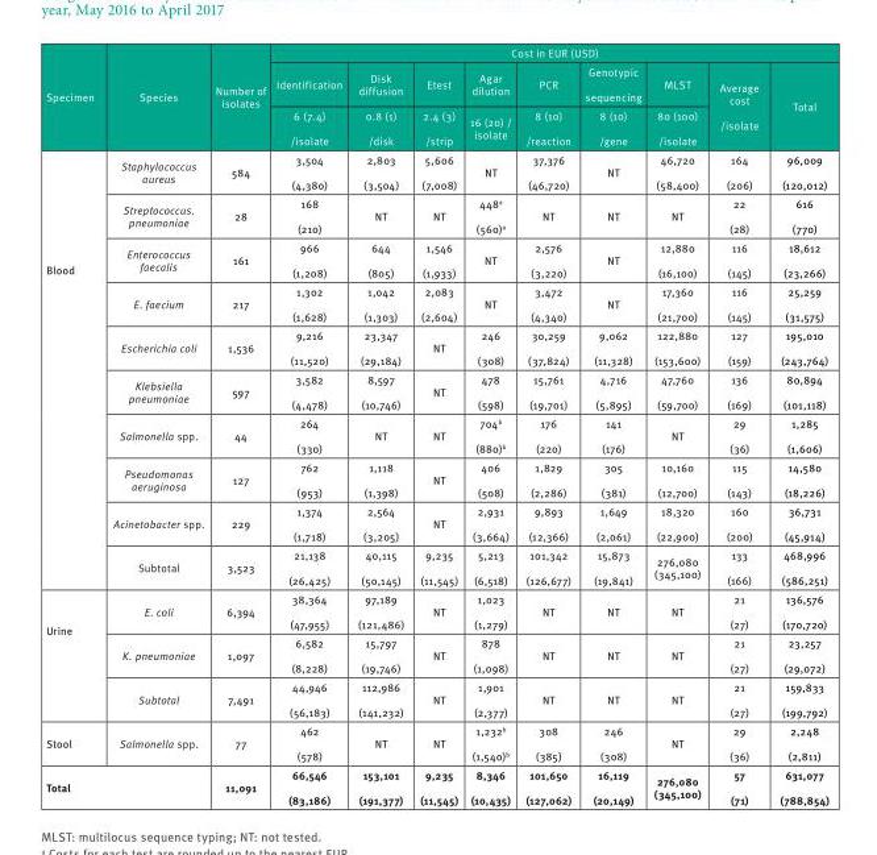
<table><thead><tr><td rowspan="3">Specimen</td><td rowspan="3">Species</td><td rowspan="3">Number of isolates</td><td colspan="9">Cost in EUR (USD)</td></tr><tr><td rowspan="2">Identification 6 (7.4) /isolate</td><td rowspan="2">Disk diffusion 0.8 (1) /disk</td><td rowspan="2">Etest 2.4 (3) /strip</td><td rowspan="2">Agar dilution 16 (20) / isolate</td><td rowspan="2">PCR 8 (10) /reaction</td><td rowspan="2">Genotypic sequencing 8 (10) /gene</td><td rowspan="2">MLST 80 (100) /isolate</td><td rowspan="2">Average cost /isolate</td><td rowspan="2">Total</td></tr><tr></tr></thead><tbody><tr><td rowspan="10">Blood</td><td>Staphylococcus aureus</td><td>584</td><td>3,504 (4,380)</td><td>2,803 (3,504)</td><td>5,606 (7,008)</td><td>NT</td><td>37,376 (46,720)</td><td>NT</td><td>46,720 (58,400)</td><td>164 (206)</td><td>96,009 (120,012)</td></tr><tr><td>Streptococcus. pneumoniae</td><td>28</td><td>168 (210)</td><td>NT</td><td>NT</td><td>448<sup>a</sup> (560)<sup>a</sup></td><td>NT</td><td>NT</td><td>NT</td><td>22 (28)</td><td>616 (770)</td></tr><tr><td>Enterococcus faecalis</td><td>161</td><td>966 (1,208)</td><td>644 (805)</td><td>1,546 (1,933)</td><td>NT</td><td>2,576 (3,220)</td><td>NT</td><td>12,880 (16,100)</td><td>116 (145)</td><td>18,612 (23,266)</td></tr><tr><td>E. faecium</td><td>217</td><td>1,302 (1,628)</td><td>1,042 (1,303)</td><td>2,083 (2,604)</td><td>NT</td><td>3,472 (4,340)</td><td>NT</td><td>17,360 (21,700)</td><td>116 (145)</td><td>25,259 (31,575)</td></tr><tr><td>Escherichia coli</td><td>1,536</td><td>9,216 (11,520)</td><td>23,347 (29,184)</td><td>NT</td><td>246 (308)</td><td>30,259 (37,824)</td><td>9,062 (11,328)</td><td>122,880 (153,600)</td><td>127 (159)</td><td>195,010 (243,764)</td></tr><tr><td>Klebsiella pneumoniae</td><td>597</td><td>3,582 (4,478)</td><td>8,597 (10,746)</td><td>NT</td><td>478 (598)</td><td>15,761 (19,701)</td><td>4,716 (5,895)</td><td>47,760 (59,700)</td><td>136 (169)</td><td>80,894 (101,118)</td></tr><tr><td>Salmonella spp.</td><td>44</td><td>264 (330)</td><td>NT</td><td>NT</td><td>704<sup>b</sup> (880)<sup>b</sup></td><td>176 (220)</td><td>141 (176)</td><td>NT</td><td>29 (36)</td><td>1,285 (1,606)</td></tr><tr><td>Pseudomonas aeruginosa</td><td>127</td><td>762 (953)</td><td>1,118 (1,398)</td><td>NT</td><td>406 (508)</td><td>1,829 (2,286)</td><td>305 (381)</td><td>10,160 (12,700)</td><td>115 (143)</td><td>14,580 (18,226)</td></tr><tr><td>Acinetobacter spp.</td><td>229</td><td>1,374 (1,718)</td><td>2,564 (3,205)</td><td>NT</td><td>2,931 (3,664)</td><td>9,893 (12,366)</td><td>1,649 (2,061)</td><td>18,320 (22,900)</td><td>160 (200)</td><td>36,731 (45,914)</td></tr><tr><td>Subtotal</td><td>3,523</td><td>21,138 (26,425)</td><td>40,115 (50,145)</td><td>9,235 (11,545)</td><td>5,213 (6,518)</td><td>101,342 (126,677)</td><td>15,873 (19,841)</td><td>276,080 (345,100)</td><td>133 (166)</td><td>468,996 (586,251)</td></tr><tr><td rowspan="3">Urine</td><td>E. coli</td><td>6,394</td><td>38,364 (47,955)</td><td>97,189 (121,486)</td><td>NT</td><td>1,023 (1,279)</td><td>NT</td><td>NT</td><td>NT</td><td>21 (27)</td><td>136,576 (170,720)</td></tr><tr><td>K. pneumoniae</td><td>1,097</td><td>6,582 (8,228)</td><td>15,797 (19,746)</td><td>NT</td><td>878 (1,098)</td><td>NT</td><td>NT</td><td>NT</td><td>21 (27)</td><td>23,257 (29,072)</td></tr><tr><td>Subtotal</td><td>7,491</td><td>44,946 (56,183)</td><td>112,986 (141,232)</td><td>NT</td><td>1,901 (2,377)</td><td>NT</td><td>NT</td><td>NT</td><td>21 (27)</td><td>159,833 (199,792)</td></tr><tr><td>Stool</td><td>Salmonella spp.</td><td>77</td><td>462 (578)</td><td>NT</td><td>NT</td><td>1,232<sup>b</sup> (1,540)<sup>b</sup></td><td>308 (385)</td><td>246 (308)</td><td>NT</td><td>29 (36)</td><td>2,248 (2,811)</td></tr><tr><td colspan="2">Total</td><td>11,091</td><td>66,546 (83,186)</td><td>153,101 (191,377)</td><td>9,235 (11,545)</td><td>8,346 (10,435)</td><td>101,650 (127,062)</td><td>16,119 (20,149)</td><td>276,080 (345,100)</td><td>57 (71)</td><td>631,077 (788,854)</td></tr></tbody></table>